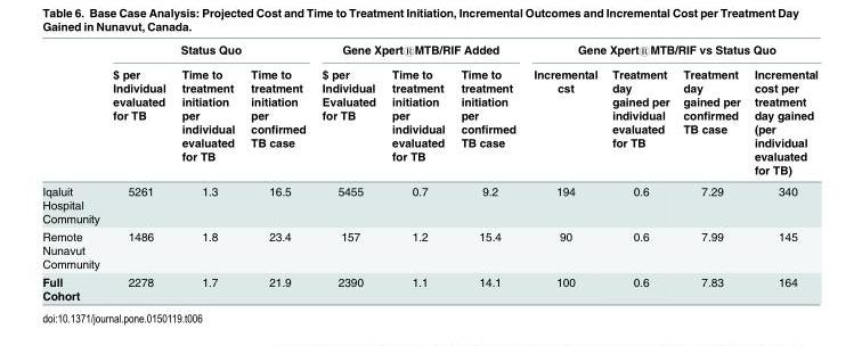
<table><thead><tr><td rowspan="2"></td><td colspan="3">Status Quo</td><td colspan="3">Gene Xpert®MTB/RIF Added</td><td colspan="4">Gene Xpert®MTB/RIF vs Status Quo</td></tr><tr><td>$ per Individual evaluated for TB</td><td>Time to treatment initiation per individual evaluated for TB</td><td>Time to treatment initiation per confirmed TB case</td><td>$ per Individual Evaluated for TB</td><td>Time to treatment initiation per individual evaluated for TB</td><td>Time to treatment initiation per confirmed TB case</td><td>Incremental cst</td><td>Treatment day gained per individual evaluated for TB</td><td>Treatment day gained per confirmed TB case</td><td>Incremental cost per treatment day gained (per individual evaluated for TB)</td></tr></thead><tbody><tr><td>Iqaluit Hospital Community</td><td>5261</td><td>1.3</td><td>16.5</td><td>5455</td><td>0.7</td><td>9.2</td><td>194</td><td>0.6</td><td>7.29</td><td>340</td></tr><tr><td>Remote Nunavut Community</td><td>1486</td><td>1.8</td><td>23.4</td><td>157</td><td>1.2</td><td>15.4</td><td>90</td><td>0.6</td><td>7.99</td><td>145</td></tr><tr><td>Full Cohort</td><td>2278</td><td>1.7</td><td>21.9</td><td>2390</td><td>1.1</td><td>14.1</td><td>100</td><td>0.6</td><td>7.83</td><td>164</td></tr></tbody></table>